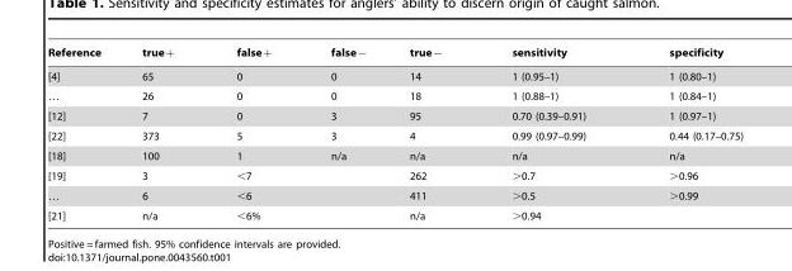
<table><thead><tr><td>Reference</td><td>truez</td><td>falsez</td><td>false{</td><td>true{</td><td>sensitivity</td><td>specificity</td></tr></thead><tbody><tr><td>[4]</td><td>65</td><td>0</td><td>0</td><td>14</td><td>1 (0.95–1)</td><td>1 (0.80–1)</td></tr><tr><td>…</td><td>26</td><td>0</td><td>0</td><td>18</td><td>1 (0.88–1)</td><td>1 (0.84–1)</td></tr><tr><td>[12]</td><td>7</td><td>0</td><td>3</td><td>95</td><td>0.70 (0.39–0.91)</td><td>1 (0.97–1)</td></tr><tr><td>[22]</td><td>373</td><td>5</td><td>3</td><td>4</td><td>0.99 (0.97–0.99)</td><td>0.44 (0.17–0.75)</td></tr><tr><td>[18]</td><td>100</td><td>1</td><td>n/a</td><td>n/a</td><td>n/a</td><td>n/a</td></tr><tr><td>[19]</td><td>3</td><td colspan="2">&lt;7</td><td>262</td><td>&gt;0.7</td><td>&gt;0.96</td></tr><tr><td>…</td><td>6</td><td colspan="2">&lt;6</td><td>411</td><td>&gt;0.5</td><td>&gt;0.99</td></tr><tr><td>[21]</td><td>n/a</td><td colspan="2">&lt;6%</td><td>n/a</td><td colspan="2">&gt;0.94</td></tr></tbody></table>